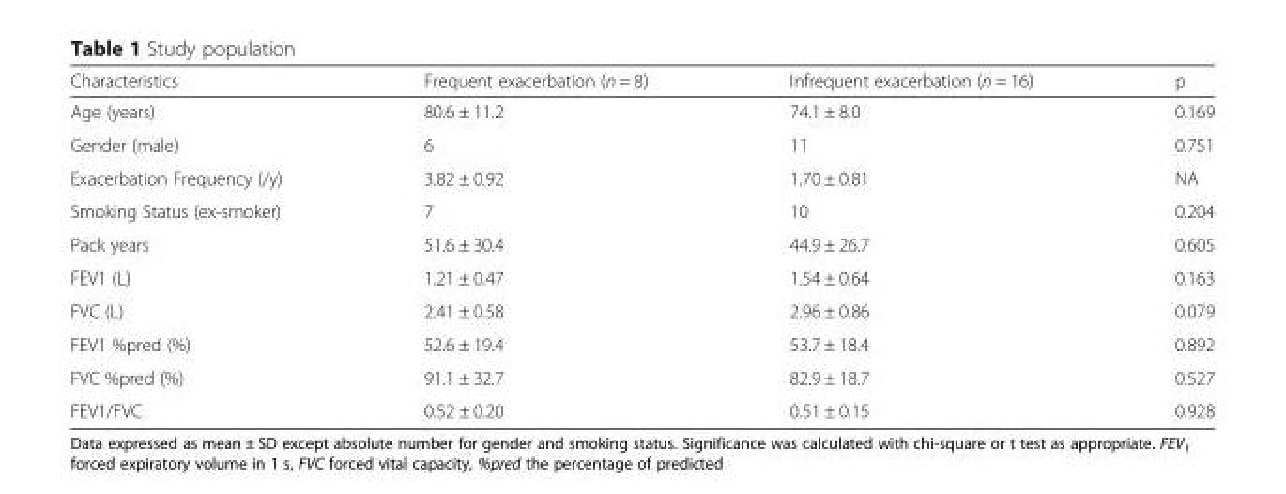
<table><thead><tr><td>Characteristics</td><td>Frequent exacerbation (n = 8)</td><td>Infrequent exacerbation (n = 16)</td><td>p</td></tr></thead><tbody><tr><td>Age (years)</td><td>80.6 ± 11.2</td><td>74.1 ± 8.0</td><td>0.169</td></tr><tr><td>Gender (male)</td><td>6</td><td>11</td><td>0.751</td></tr><tr><td>Exacerbation Frequency (/y)</td><td>3.82 ± 0.92</td><td>1.70 ± 0.81</td><td>NA</td></tr><tr><td>Smoking Status (ex-smoker)</td><td>7</td><td>10</td><td>0.204</td></tr><tr><td>Pack years</td><td>51.6 ± 30.4</td><td>44.9 ± 26.7</td><td>0.605</td></tr><tr><td>FEV1 (L)</td><td>1.21 ± 0.47</td><td>1.54 ± 0.64</td><td>0.163</td></tr><tr><td>FVC (L)</td><td>2.41 ± 0.58</td><td>2.96 ± 0.86</td><td>0.079</td></tr><tr><td>FEV1 %pred (%)</td><td>52.6 ± 19.4</td><td>53.7 ± 18.4</td><td>0.892</td></tr><tr><td>FVC %pred (%)</td><td>91.1 ± 32.7</td><td>82.9 ± 18.7</td><td>0.527</td></tr><tr><td>FEV1/FVC</td><td>0.52 ± 0.20</td><td>0.51 ± 0.15</td><td>0.928</td></tr></tbody></table>